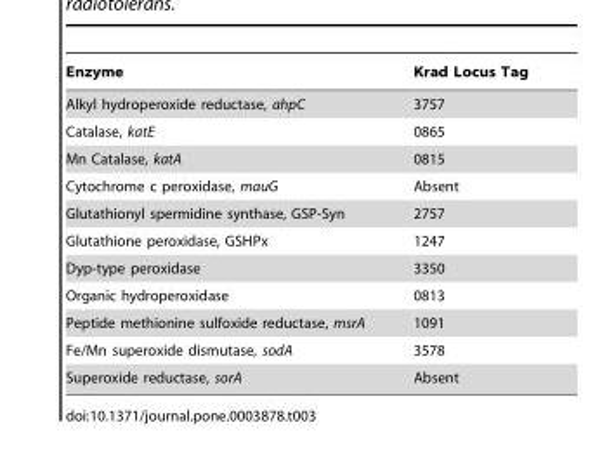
<table><thead><tr><td>Enzyme</td><td>Krad Locus Tag</td></tr></thead><tbody><tr><td>Alkyl hydroperoxide reductase, ahpC</td><td>3757</td></tr><tr><td>Catalase, katE</td><td>0865</td></tr><tr><td>Mn Catalase, katA</td><td>0815</td></tr><tr><td>Cytochrome c peroxidase, mauG</td><td>Absent</td></tr><tr><td>Glutathionyl spermidine synthase, GSP-Syn</td><td>2757</td></tr><tr><td>Glutathione peroxidase, GSHPx</td><td>1247</td></tr><tr><td>Dyp-type peroxidase</td><td>3350</td></tr><tr><td>Organic hydroperoxidase</td><td>0813</td></tr><tr><td>Peptide methionine sulfoxide reductase, msrA</td><td>1091</td></tr><tr><td>Fe/Mn superoxide dismutase, sodA</td><td>3578</td></tr><tr><td>Superoxide reductase, sorA</td><td>Absent</td></tr></tbody></table>